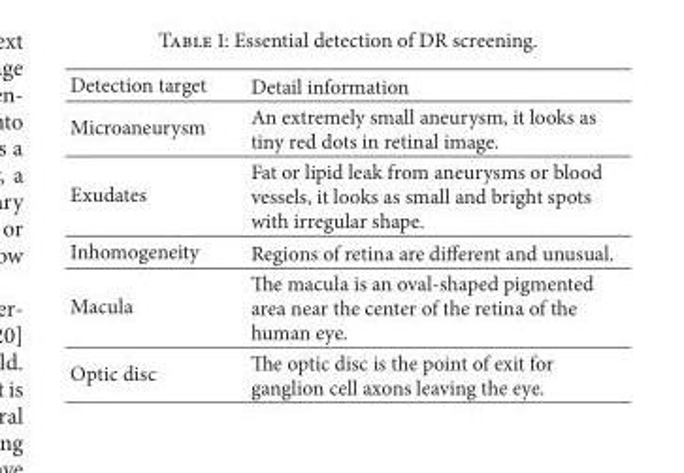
<table><thead><tr><td>Detection target</td><td>Detail information</td></tr></thead><tbody><tr><td>Microaneurysm</td><td>An extremely small aneurysm, it looks as tiny red dots in retinal image.</td></tr><tr><td>Exudates</td><td>Fat or lipid leak from aneurysms or blood vessels, it looks as small and bright spots with irregular shape.</td></tr><tr><td>Inhomogeneity</td><td>Regions of retina are different and unusual.</td></tr><tr><td>Macula</td><td>The macula is an oval-shaped pigmented area near the center of the retina of the human eye.</td></tr><tr><td>Optic disc</td><td>The optic disc is the point of exit for ganglion cell axons leaving the eye.</td></tr></tbody></table>